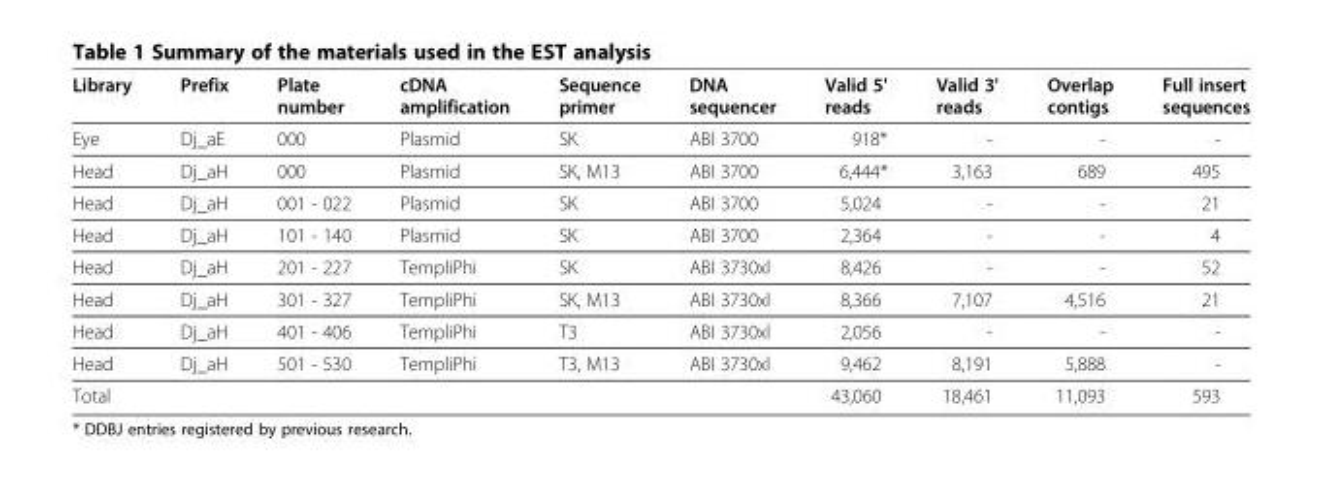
<table><thead><tr><td>Library</td><td>Prefix</td><td>Plate number</td><td>cDNA amplification</td><td>Sequence primer</td><td>DNA sequencer</td><td>Valid 5&#x27; reads</td><td>Valid 3&#x27; reads</td><td>Overlap contigs</td><td>Full insert sequences</td></tr></thead><tbody><tr><td>Eye</td><td>Dj_aE</td><td>000</td><td>Plasmid</td><td>SK</td><td>ABI 3700</td><td>918*</td><td>-</td><td>-</td><td>-</td></tr><tr><td>Head</td><td>Dj_aH</td><td>000</td><td>Plasmid</td><td>SK, M13</td><td>ABI 3700</td><td>6,444*</td><td>3,163</td><td>689</td><td>495</td></tr><tr><td>Head</td><td>Dj_aH</td><td>001 - 022</td><td>Plasmid</td><td>SK</td><td>ABI 3700</td><td>5,024</td><td>-</td><td>-</td><td>21</td></tr><tr><td>Head</td><td>Dj_aH</td><td>101 - 140</td><td>Plasmid</td><td>SK</td><td>ABI 3700</td><td>2,364</td><td>-</td><td>-</td><td>4</td></tr><tr><td>Head</td><td>Dj_aH</td><td>201 - 227</td><td>TempliPhi</td><td>SK</td><td>ABI 3730xl</td><td>8,426</td><td>-</td><td>-</td><td>52</td></tr><tr><td>Head</td><td>Dj_aH</td><td>301 - 327</td><td>TempliPhi</td><td>SK, M13</td><td>ABI 3730xl</td><td>8,366</td><td>7,107</td><td>4,516</td><td>21</td></tr><tr><td>Head</td><td>Dj_aH</td><td>401 - 406</td><td>TempliPhi</td><td>T3</td><td>ABI 3730xl</td><td>2,056</td><td>-</td><td>-</td><td>-</td></tr><tr><td>Head</td><td>Dj_aH</td><td>501 - 530</td><td>TempliPhi</td><td>T3, M13</td><td>ABI 3730xl</td><td>9,462</td><td>8,191</td><td>5,888</td><td>-</td></tr><tr><td>Total</td><td></td><td></td><td></td><td></td><td></td><td>43,060</td><td>18,461</td><td>11,093</td><td>593</td></tr></tbody></table>